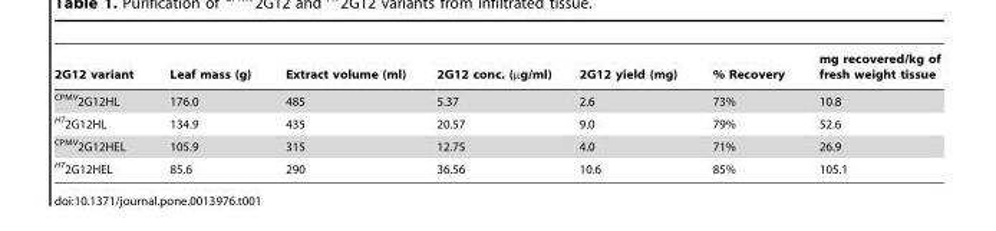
<table><thead><tr><td>2G12 variant</td><td>Leaf mass (g)</td><td>Extract volume (ml)</td><td>2G12 conc. (µg/ml)</td><td>2G12 yield (mg)</td><td>% Recovery</td><td>mg recovered/kg of fresh weight tissue</td></tr></thead><tbody><tr><td><sup>CPMV</sup>2G12HL</td><td>176.0</td><td>485</td><td>5.37</td><td>2.6</td><td>73%</td><td>10.8</td></tr><tr><td><sup>HT</sup>2G12HL</td><td>134.9</td><td>435</td><td>20.57</td><td>9.0</td><td>79%</td><td>52.6</td></tr><tr><td><sup>CPMV</sup>2G12HEL</td><td>105.9</td><td>315</td><td>12.75</td><td>4.0</td><td>71%</td><td>26.9</td></tr><tr><td><sup>HT</sup>2G12HEL</td><td>85.6</td><td>290</td><td>36.56</td><td>10.6</td><td>85%</td><td>105.1</td></tr></tbody></table>